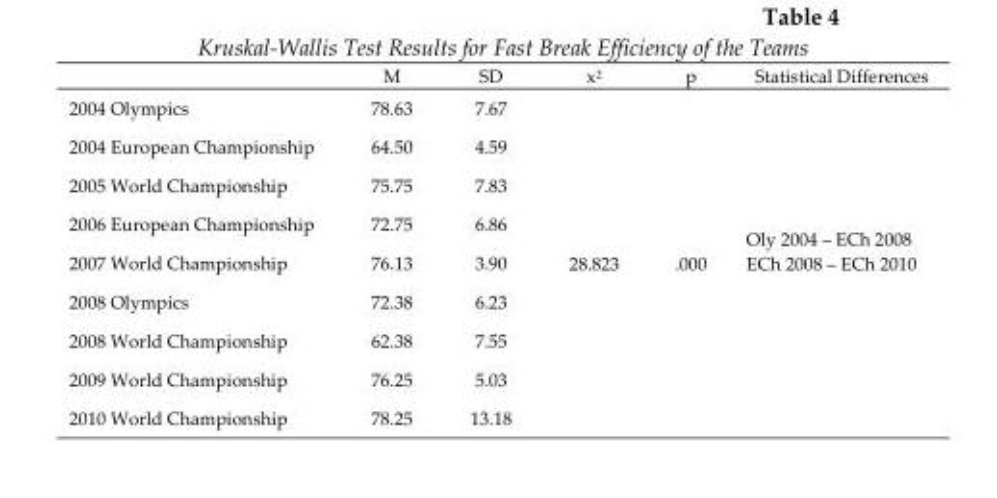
<table><thead><tr><td></td><td>M</td><td>SD</td><td>x<sup>2</sup></td><td>p</td><td>Statistical Differences</td></tr></thead><tbody><tr><td>2004 Olympics</td><td>78.63</td><td>7.67</td><td rowspan="9">28.823</td><td rowspan="9">.000</td><td rowspan="9">Oly 2004 – ECh 2008 ECh 2008 – ECh 2010</td></tr><tr><td>2004 European Championship</td><td>64.50</td><td>4.59</td></tr><tr><td>2005 World Championship</td><td>75.75</td><td>7.83</td></tr><tr><td>2006 European Championship</td><td>72.75</td><td>6.86</td></tr><tr><td>2007 World Championship</td><td>76.13</td><td>3.90</td></tr><tr><td>2008 Olympics</td><td>72.38</td><td>6.23</td></tr><tr><td>2008 World Championship</td><td>62.38</td><td>7.55</td></tr><tr><td>2009 World Championship</td><td>76.25</td><td>5.03</td></tr><tr><td>2010 World Championship</td><td>78.25</td><td>13.18</td></tr></tbody></table>